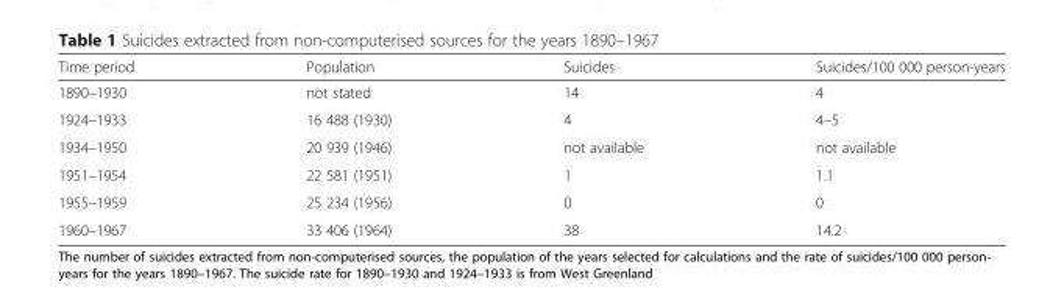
<table><thead><tr><td>Time period</td><td>Population</td><td>Suicides</td><td>Suicides/100 000 person-years</td></tr></thead><tbody><tr><td>1890–1930</td><td>not stated</td><td>14</td><td>4</td></tr><tr><td>1924–1933</td><td>16 488 (1930)</td><td>4</td><td>4–5</td></tr><tr><td>1934–1950</td><td>20 939 (1946)</td><td>not available</td><td>not available</td></tr><tr><td>1951–1954</td><td>22 581 (1951)</td><td>1</td><td>1.1</td></tr><tr><td>1955–1959</td><td>25 234 (1956)</td><td>0</td><td>0</td></tr><tr><td>1960–1967</td><td>33 406 (1964)</td><td>38</td><td>14.2</td></tr></tbody></table>